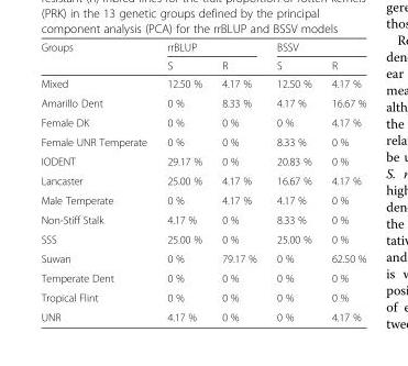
<table><thead><tr><td rowspan="2">Groups</td><td colspan="2">rrBLUP</td><td colspan="2">BSSV</td></tr><tr><td>S</td><td>R</td><td>S</td><td>R</td></tr></thead><tbody><tr><td>Mixed</td><td>12.50 %</td><td>4.17 %</td><td>12.50 %</td><td>4.17 %</td></tr><tr><td>Amarillo Dent</td><td>0 %</td><td>8.33 %</td><td>4.17 %</td><td>16.67 %</td></tr><tr><td>Female DK</td><td>0 %</td><td>0 %</td><td>0 %</td><td>4.17 %</td></tr><tr><td>Female UNR Temperate</td><td>0 %</td><td>0 %</td><td>8.33 %</td><td>0 %</td></tr><tr><td>IODENT</td><td>29.17 %</td><td>0 %</td><td>20.83 %</td><td>0 %</td></tr><tr><td>Lancaster</td><td>25.00 %</td><td>4.17 %</td><td>16.67 %</td><td>4.17 %</td></tr><tr><td>Male Temperate</td><td>0 %</td><td>4.17 %</td><td>4.17 %</td><td>0 %</td></tr><tr><td>Non-Stiff Stalk</td><td>4.17 %</td><td>0 %</td><td>8.33 %</td><td>0 %</td></tr><tr><td>SSS</td><td>25.00 %</td><td>0 %</td><td>25.00 %</td><td>0 %</td></tr><tr><td>Suwan</td><td>0 %</td><td>79.17 %</td><td>0 %</td><td>62.50 %</td></tr><tr><td>Temperate Dent</td><td>0 %</td><td>0 %</td><td>0 %</td><td>0 %</td></tr><tr><td>Tropical Flint</td><td>0 %</td><td>0 %</td><td>0 %</td><td>0 %</td></tr><tr><td>UNR</td><td>4.17 %</td><td>0 %</td><td>0 %</td><td>4.17 %</td></tr></tbody></table>